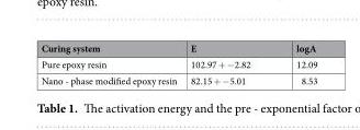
<table><thead><tr><td>Curing system</td><td>E</td><td>logA</td></tr></thead><tbody><tr><td>Pure epoxy resin</td><td>102.97 + −2.82</td><td>12.09</td></tr><tr><td>Nano - phase modified epoxy resin</td><td>82.15 + −5.01</td><td>8.53</td></tr></tbody></table>